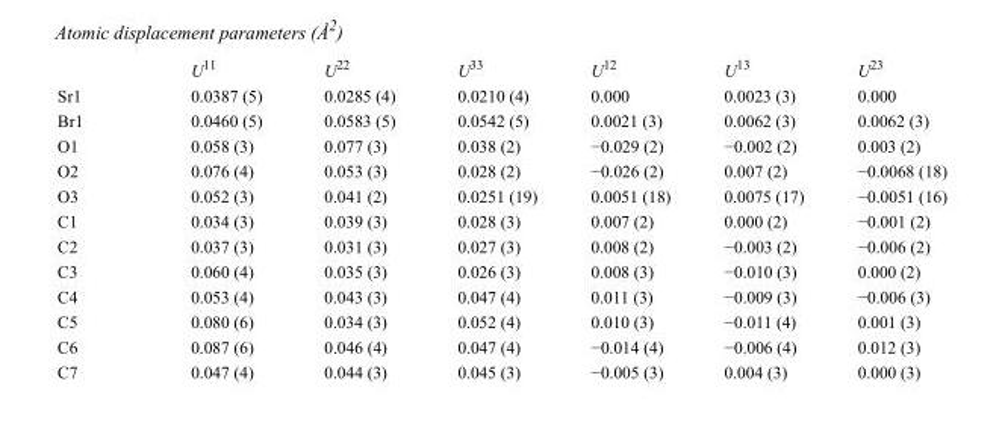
<table><thead><tr><td></td><td>U<sup>11</sup></td><td>U<sup>22</sup></td><td>U<sup>33</sup></td><td>U<sup>12</sup></td><td>U<sup>13</sup></td><td>U<sup>23</sup></td></tr></thead><tbody><tr><td>Sr1</td><td>0.0387 (5)</td><td>0.0285 (4)</td><td>0.0210 (4)</td><td>0.000</td><td>0.0023 (3)</td><td>0.000</td></tr><tr><td>Br1</td><td>0.0460 (5)</td><td>0.0583 (5)</td><td>0.0542 (5)</td><td>0.0021 (3)</td><td>0.0062 (3)</td><td>0.0062 (3)</td></tr><tr><td>O1</td><td>0.058 (3)</td><td>0.077 (3)</td><td>0.038 (2)</td><td>−0.029 (2)</td><td>−0.002 (2)</td><td>0.003 (2)</td></tr><tr><td>O2</td><td>0.076 (4)</td><td>0.053 (3)</td><td>0.028 (2)</td><td>−0.026 (2)</td><td>0.007 (2)</td><td>−0.0068 (18)</td></tr><tr><td>O3</td><td>0.052 (3)</td><td>0.041 (2)</td><td>0.0251 (19)</td><td>0.0051 (18)</td><td>0.0075 (17)</td><td>−0.0051 (16)</td></tr><tr><td>C1</td><td>0.034 (3)</td><td>0.039 (3)</td><td>0.028 (3)</td><td>0.007 (2)</td><td>0.000 (2)</td><td>−0.001 (2)</td></tr><tr><td>C2</td><td>0.037 (3)</td><td>0.031 (3)</td><td>0.027 (3)</td><td>0.008 (2)</td><td>−0.003 (2)</td><td>−0.006 (2)</td></tr><tr><td>C3</td><td>0.060 (4)</td><td>0.035 (3)</td><td>0.026 (3)</td><td>0.008 (3)</td><td>−0.010 (3)</td><td>0.000 (2)</td></tr><tr><td>C4</td><td>0.053 (4)</td><td>0.043 (3)</td><td>0.047 (4)</td><td>0.011 (3)</td><td>−0.009 (3)</td><td>−0.006 (3)</td></tr><tr><td>C5</td><td>0.080 (6)</td><td>0.034 (3)</td><td>0.052 (4)</td><td>0.010 (3)</td><td>−0.011 (4)</td><td>0.001 (3)</td></tr><tr><td>C6</td><td>0.087 (6)</td><td>0.046 (4)</td><td>0.047 (4)</td><td>−0.014 (4)</td><td>−0.006 (4)</td><td>0.012 (3)</td></tr><tr><td>C7</td><td>0.047 (4)</td><td>0.044 (3)</td><td>0.045 (3)</td><td>−0.005 (3)</td><td>0.004 (3)</td><td>0.000 (3)</td></tr></tbody></table>